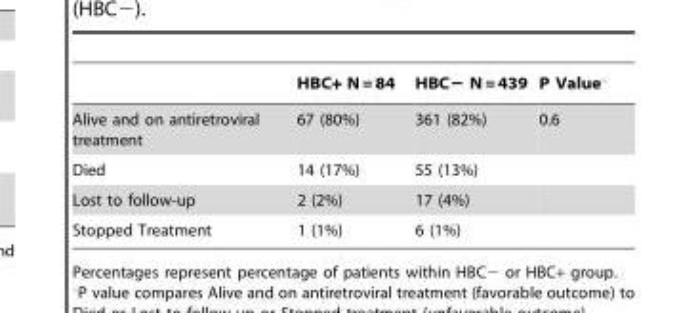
<table><thead><tr><td></td><td>HBC+ N = 84</td><td>HBC− N = 439</td><td>P Value‘</td></tr></thead><tbody><tr><td>Alive and on antiretroviral treatment</td><td>67 (80%)</td><td>361 (82%)</td><td>0.6</td></tr><tr><td>Died</td><td>14 (17%)</td><td>55 (13%)</td><td></td></tr><tr><td>Lost to follow-up</td><td>2 (2%)</td><td>17 (4%)</td><td></td></tr><tr><td>Stopped Treatment</td><td>1 (1%)</td><td>6 (1%)</td><td></td></tr></tbody></table>